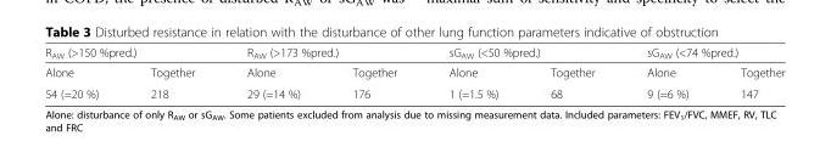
<table><thead><tr><td colspan="2">R<sub>AW</sub> (&gt;150 %pred.)</td><td colspan="2">R<sub>AW</sub> (&gt;173 %pred.)</td><td colspan="2">sG<sub>AW</sub> (&lt;50 %pred.)</td><td colspan="2">sG<sub>AW</sub> (&lt;74 %pred.)</td></tr><tr><td>Alone</td><td>Together</td><td>Alone</td><td>Together</td><td>Alone</td><td>Together</td><td>Alone</td><td>Together</td></tr></thead><tbody><tr><td>54 (=20 %)</td><td>218</td><td>29 (=14 %)</td><td>176</td><td>1 (=1.5 %)</td><td>68</td><td>9 (=6 %)</td><td>147</td></tr></tbody></table>